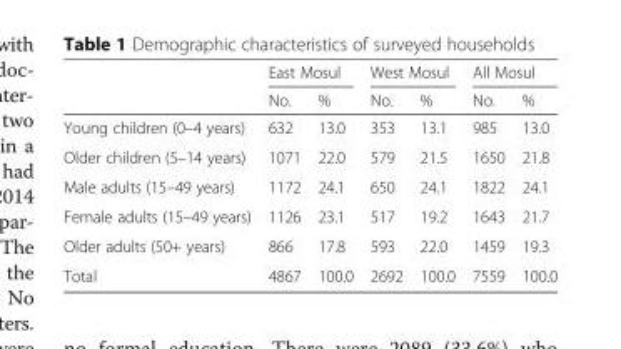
<table><thead><tr><td rowspan="2"></td><td colspan="2">East Mosul</td><td colspan="2">West Mosul</td><td colspan="2">All Mosul</td></tr><tr><td>No.</td><td>%</td><td>No.</td><td>%</td><td>No.</td><td>%</td></tr></thead><tbody><tr><td>Young children (0–4 years)</td><td>632</td><td>13.0</td><td>353</td><td>13.1</td><td>985</td><td>13.0</td></tr><tr><td>Older children (5–14 years)</td><td>1071</td><td>22.0</td><td>579</td><td>21.5</td><td>1650</td><td>21.8</td></tr><tr><td>Male adults (15–49 years)</td><td>1172</td><td>24.1</td><td>650</td><td>24.1</td><td>1822</td><td>24.1</td></tr><tr><td>Female adults (15–49 years)</td><td>1126</td><td>23.1</td><td>517</td><td>19.2</td><td>1643</td><td>21.7</td></tr><tr><td>Older adults (50+ years)</td><td>866</td><td>17.8</td><td>593</td><td>22.0</td><td>1459</td><td>19.3</td></tr><tr><td>Total</td><td>4867</td><td>100.0</td><td>2692</td><td>100.0</td><td>7559</td><td>100.0</td></tr></tbody></table>